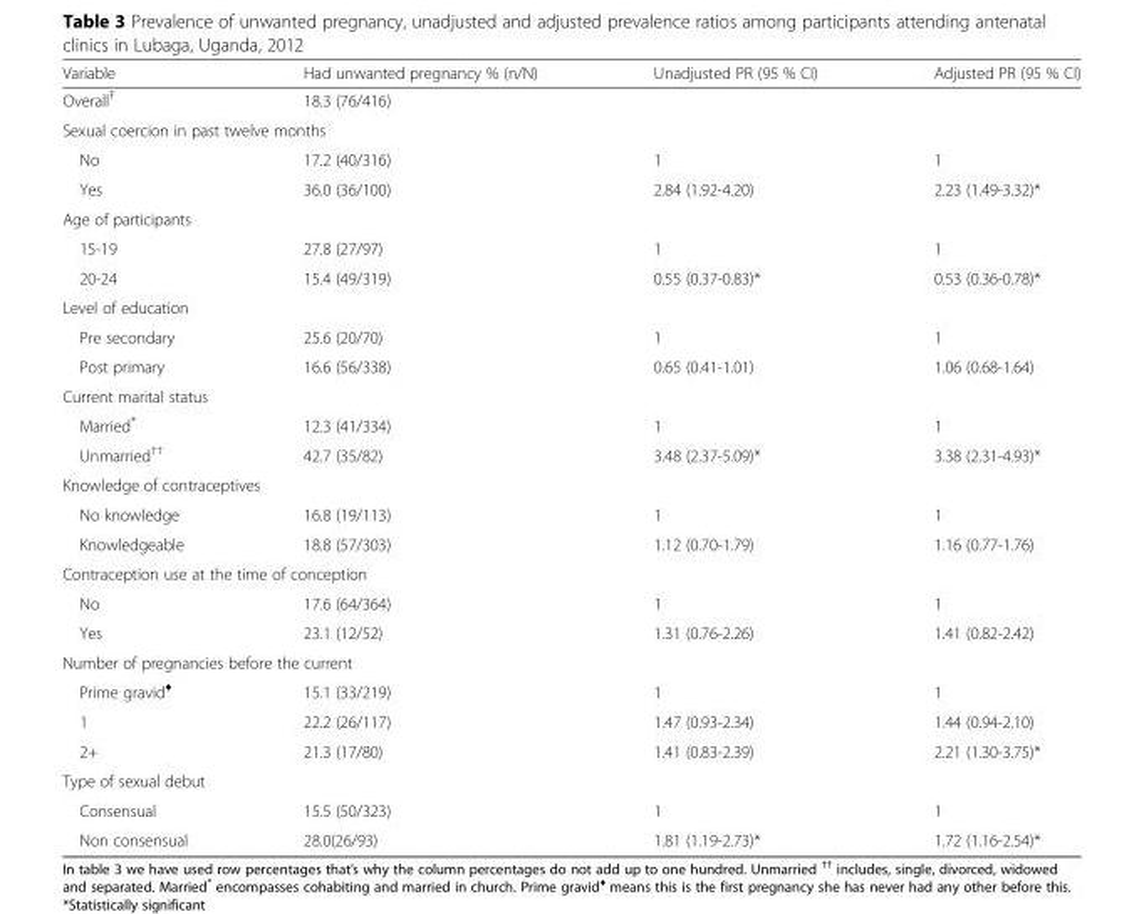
<table><thead><tr><td>Variable</td><td>Had unwanted pregnancy % (n/N)</td><td>Unadjusted PR (95 % CI)</td><td>Adjusted PR (95 % CI)</td></tr></thead><tbody><tr><td>Overall<sup>Ŧ</sup></td><td>18.3 (76/416)</td><td></td><td></td></tr><tr><td colspan="4">Sexual coercion in past twelve months</td></tr><tr><td>No</td><td>17.2 (40/316)</td><td>1</td><td>1</td></tr><tr><td>Yes</td><td>36.0 (36/100)</td><td>2.84 (1.92-4.20)</td><td>2.23 (1.49-3.32)*</td></tr><tr><td colspan="4">Age of participants</td></tr><tr><td>15-19</td><td>27.8 (27/97)</td><td>1</td><td>1</td></tr><tr><td>20-24</td><td>15.4 (49/319)</td><td>0.55 (0.37-0.83)*</td><td>0.53 (0.36-0.78)*</td></tr><tr><td colspan="4">Level of education</td></tr><tr><td>Pre secondary</td><td>25.6 (20/70)</td><td>1</td><td>1</td></tr><tr><td>Post primary</td><td>16.6 (56/338)</td><td>0.65 (0.41-1.01)</td><td>1.06 (0.68-1.64)</td></tr><tr><td colspan="4">Current marital status</td></tr><tr><td>Married<sup>®</sup></td><td>12.3 (41/334)</td><td>1</td><td>1</td></tr><tr><td>Unmarried<sup>††</sup></td><td>42.7 (35/82)</td><td>3.48 (2.37-5.09)*</td><td>3.38 (2.31-4.93)*</td></tr><tr><td colspan="4">Knowledge of contraceptives</td></tr><tr><td>No knowledge</td><td>16.8 (19/113)</td><td>1</td><td>1</td></tr><tr><td>Knowledgeable</td><td>18.8 (57/303)</td><td>1.12 (0.70-1.79)</td><td>1.16 (0.77-1.76)</td></tr><tr><td colspan="4">Contraception use at the time of conception</td></tr><tr><td>No</td><td>17.6 (64/364)</td><td>1</td><td>1</td></tr><tr><td>Yes</td><td>23.1 (12/52)</td><td>1.31 (0.76-2.26)</td><td>1.41 (0.82-2.42)</td></tr><tr><td colspan="4">Number of pregnancies before the current</td></tr><tr><td>Prime gravid<sup>♦</sup></td><td>15.1 (33/219)</td><td>1</td><td>1</td></tr><tr><td>1</td><td>22.2 (26/117)</td><td>1.47 (0.93-2.34)</td><td>1.44 (0.94-2.10)</td></tr><tr><td>2+</td><td>21.3 (17/80)</td><td>1.41 (0.83-2.39)</td><td>2.21 (1.30-3.75)*</td></tr><tr><td colspan="4">Type of sexual debut</td></tr><tr><td>Consensual</td><td>15.5 (50/323)</td><td>1</td><td>1</td></tr><tr><td>Non consensual</td><td>28.0(26/93)</td><td>1.81 (1.19-2.73)*</td><td>1.72 (1.16-2.54)*</td></tr></tbody></table>